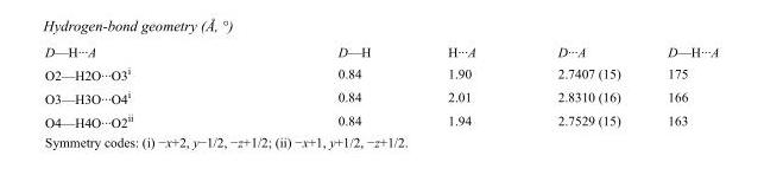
<table><tbody><tr><td>D—H···A</td><td>D—H</td><td>H···A</td><td>D···A</td><td>D—H···A</td></tr><tr><td>O2—H2O···O3<sup>i</sup></td><td>0.84</td><td>1.90</td><td>2.7407 (15)</td><td>175</td></tr><tr><td>O3—H3O···O4<sup>i</sup></td><td>0.84</td><td>2.01</td><td>2.8310 (16)</td><td>166</td></tr><tr><td>O4—H4O···O2<sup>ii</sup></td><td>0.84</td><td>1.94</td><td>2.7529 (15)</td><td>163</td></tr></tbody></table>